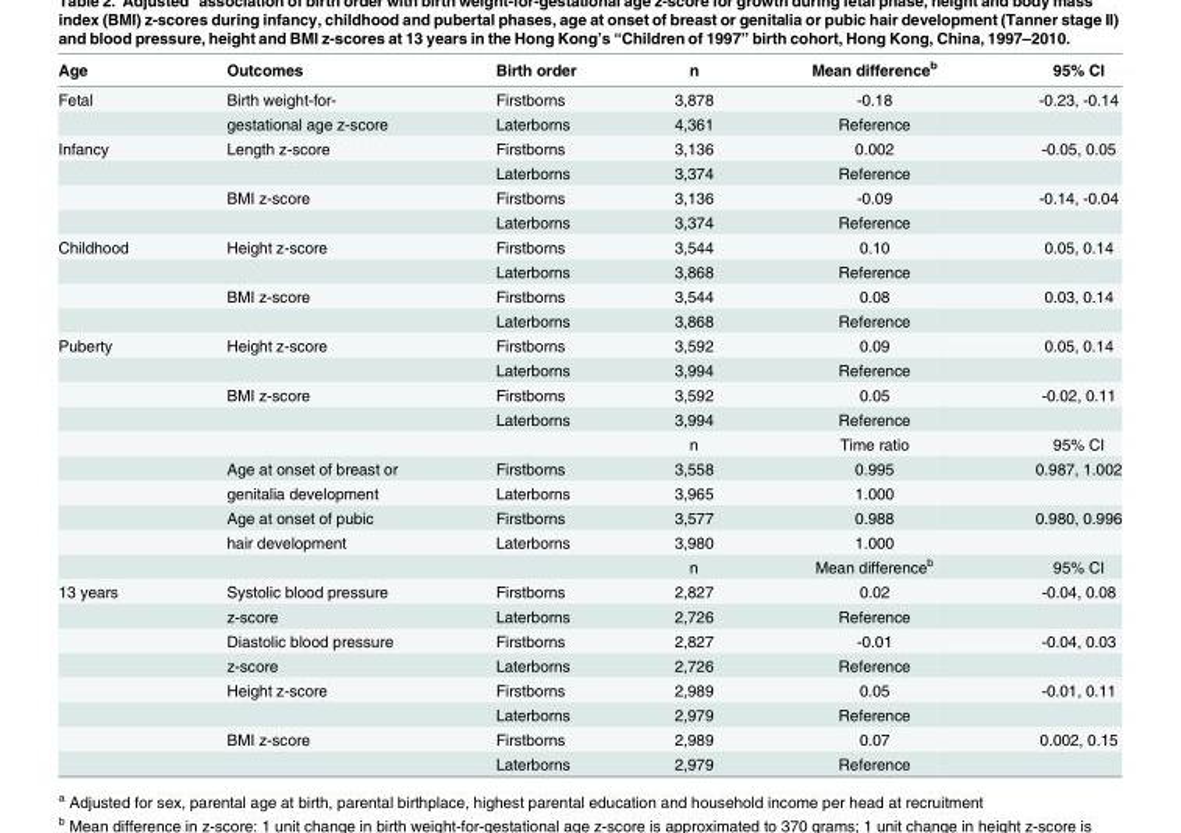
<table><thead><tr><td>Age</td><td>Outcomes</td><td>Birth order</td><td>n</td><td>Mean difference<sup>b</sup></td><td>95% CI</td></tr></thead><tbody><tr><td rowspan="2">Fetal</td><td>Birth weight-for-</td><td>Firstborns</td><td>3,878</td><td>-0.18</td><td>-0.23, -0.14</td></tr><tr><td>gestational age z-score</td><td>Laterborns</td><td>4,361</td><td>Reference</td><td></td></tr><tr><td rowspan="4">Infancy</td><td>Length z-score</td><td>Firstborns</td><td>3,136</td><td>0.002</td><td>-0.05, 0.05</td></tr><tr><td></td><td>Laterborns</td><td>3,374</td><td>Reference</td><td></td></tr><tr><td>BMI z-score</td><td>Firstborns</td><td>3,136</td><td>-0.09</td><td>-0.14, -0.04</td></tr><tr><td></td><td>Laterborns</td><td>3,374</td><td>Reference</td><td></td></tr><tr><td rowspan="4">Childhood</td><td>Height z-score</td><td>Firstborns</td><td>3,544</td><td>0.10</td><td>0.05, 0.14</td></tr><tr><td></td><td>Laterborns</td><td>3,868</td><td>Reference</td><td></td></tr><tr><td>BMI z-score</td><td>Firstborns</td><td>3,544</td><td>0.08</td><td>0.03, 0.14</td></tr><tr><td></td><td>Laterborns</td><td>3,868</td><td>Reference</td><td></td></tr><tr><td rowspan="10">Puberty</td><td>Height z-score</td><td>Firstborns</td><td>3,592</td><td>0.09</td><td>0.05, 0.14</td></tr><tr><td></td><td>Laterborns</td><td>3,994</td><td>Reference</td><td></td></tr><tr><td>BMI z-score</td><td>Firstborns</td><td>3,592</td><td>0.05</td><td>-0.02, 0.11</td></tr><tr><td></td><td>Laterborns</td><td>3,994</td><td>Reference</td><td></td></tr><tr><td></td><td></td><td>n</td><td>Time ratio</td><td>95% CI</td></tr><tr><td>Age at onset of breast or</td><td>Firstborns</td><td>3,558</td><td>0.995</td><td>0.987, 1.002</td></tr><tr><td>genitalia development</td><td>Laterborns</td><td>3,965</td><td>1.000</td><td></td></tr><tr><td>Age at onset of pubic</td><td>Firstborns</td><td>3,577</td><td>0.988</td><td>0.980, 0.996</td></tr><tr><td>hair development</td><td>Laterborns</td><td>3,980</td><td>1.000</td><td></td></tr><tr><td></td><td></td><td>n</td><td>Mean difference<sup>b</sup></td><td>95% CI</td></tr><tr><td rowspan="8">13 years</td><td>Systolic blood pressure</td><td>Firstborns</td><td>2,827</td><td>0.02</td><td>-0.04, 0.08</td></tr><tr><td>z-score</td><td>Laterborns</td><td>2,726</td><td>Reference</td><td></td></tr><tr><td>Diastolic blood pressure</td><td>Firstborns</td><td>2,827</td><td>-0.01</td><td>-0.04, 0.03</td></tr><tr><td>z-score</td><td>Laterborns</td><td>2,726</td><td>Reference</td><td></td></tr><tr><td>Height z-score</td><td>Firstborns</td><td>2,989</td><td>0.05</td><td>-0.01, 0.11</td></tr><tr><td></td><td>Laterborns</td><td>2,979</td><td>Reference</td><td></td></tr><tr><td>BMI z-score</td><td>Firstborns</td><td>2,989</td><td>0.07</td><td>0.002, 0.15</td></tr><tr><td></td><td>Laterborns</td><td>2,979</td><td>Reference</td><td></td></tr></tbody></table>